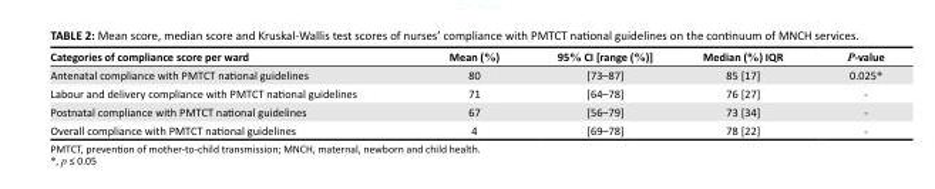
<table><thead><tr><td>Categories of compliance score per ward</td><td>Mean (%)</td><td>95% CI [range (%)]</td><td>Median (%) IQR</td><td>P-value</td></tr></thead><tbody><tr><td>Antenatal compliance with PMTCT national guidelines</td><td>80</td><td>[73–87]</td><td>85 [17]</td><td>0.025*</td></tr><tr><td>Labour and delivery compliance with PMTCT national guidelines</td><td>71</td><td>[64–78]</td><td>76 [27]</td><td>-</td></tr><tr><td>Postnatal compliance with PMTCT national guidelines</td><td>67</td><td>[56–79]</td><td>73 [34]</td><td>-</td></tr><tr><td>Overall compliance with PMTCT national guidelines</td><td>4</td><td>[69–78]</td><td>78 [22]</td><td>-</td></tr></tbody></table>